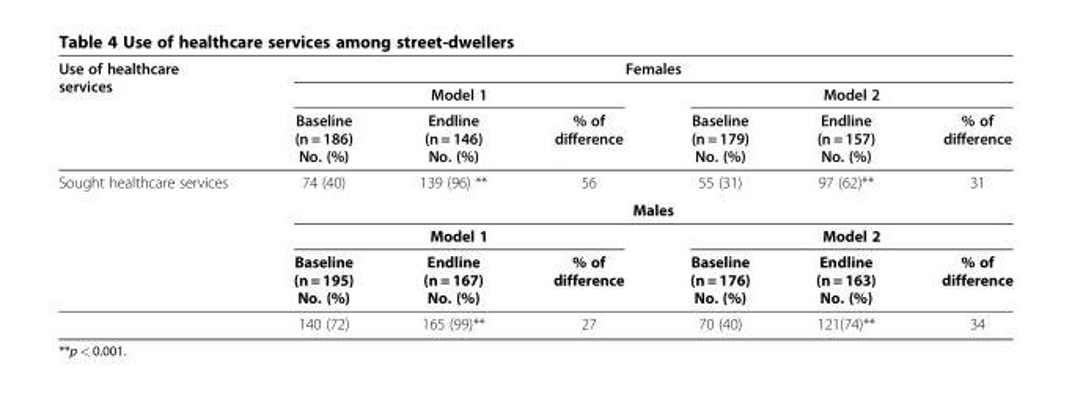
<table><thead><tr><td rowspan="3">Use of healthcare services</td><td colspan="6">Females</td></tr><tr><td colspan="3">Model 1</td><td colspan="3">Model 2</td></tr><tr><td>Baseline (n = 186) No. (%)</td><td>Endline (n = 146) No. (%)</td><td>% of difference</td><td>Baseline (n = 179) No. (%)</td><td>Endline (n = 157) No. (%)</td><td>% of difference</td></tr></thead><tbody><tr><td rowspan="5">Sought healthcare services</td><td>74 (40)</td><td>139 (96) **</td><td>56</td><td>55 (31)</td><td>97 (62)**</td><td>31</td></tr><tr><td colspan="6">Males</td></tr><tr><td colspan="3">Model 1</td><td colspan="3">Model 2</td></tr><tr><td>Baseline (n = 195) No. (%)</td><td>Endline (n = 167) No. (%)</td><td>% of difference</td><td>Baseline (n = 176) No. (%)</td><td>Endline (n = 163) No. (%)</td><td>% of difference</td></tr><tr><td>140 (72)</td><td>165 (99)**</td><td>27</td><td>70 (40)</td><td>121(74)**</td><td>34</td></tr></tbody></table>